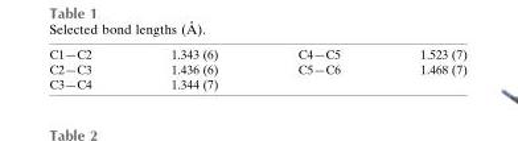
<table><tbody><tr><td>C1—C2</td><td>1.343 (6)</td><td>C4—C5</td><td>1.523 (7)</td></tr><tr><td>C2—C3</td><td>1.436 (6)</td><td>C5—C6</td><td>1.468 (7)</td></tr><tr><td>C3—C4</td><td>1.344 (7)</td><td></td><td></td></tr></tbody></table>